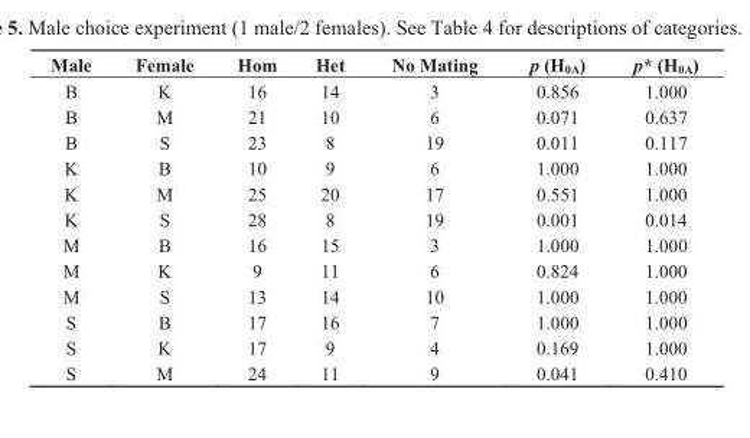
<table><thead><tr><td>Male</td><td>Female</td><td>Hom</td><td>Het</td><td>No Mating</td><td>p (H<sub>0A</sub>)</td><td>p* (H<sub>0A</sub>)</td></tr></thead><tbody><tr><td>B</td><td>K</td><td>16</td><td>14</td><td>3</td><td>0.856</td><td>1.000</td></tr><tr><td>B</td><td>M</td><td>21</td><td>10</td><td>6</td><td>0.071</td><td>0.637</td></tr><tr><td>B</td><td>S</td><td>23</td><td>8</td><td>19</td><td>0.011</td><td>0.117</td></tr><tr><td>K</td><td>B</td><td>10</td><td>9</td><td>6</td><td>1.000</td><td>1.000</td></tr><tr><td>K</td><td>M</td><td>25</td><td>20</td><td>17</td><td>0.551</td><td>1.000</td></tr><tr><td>K</td><td>S</td><td>28</td><td>8</td><td>19</td><td>0.001</td><td>0.014</td></tr><tr><td>M</td><td>B</td><td>16</td><td>15</td><td>3</td><td>1.000</td><td>1.000</td></tr><tr><td>M</td><td>K</td><td>9</td><td>11</td><td>6</td><td>0.824</td><td>1.000</td></tr><tr><td>M</td><td>S</td><td>13</td><td>14</td><td>10</td><td>1.000</td><td>1.000</td></tr><tr><td>S</td><td>B</td><td>17</td><td>16</td><td>7</td><td>1.000</td><td>1.000</td></tr><tr><td>S</td><td>K</td><td>17</td><td>9</td><td>4</td><td>0.169</td><td>1.000</td></tr><tr><td>S</td><td>M</td><td>24</td><td>11</td><td>9</td><td>0.041</td><td>0.410</td></tr></tbody></table>